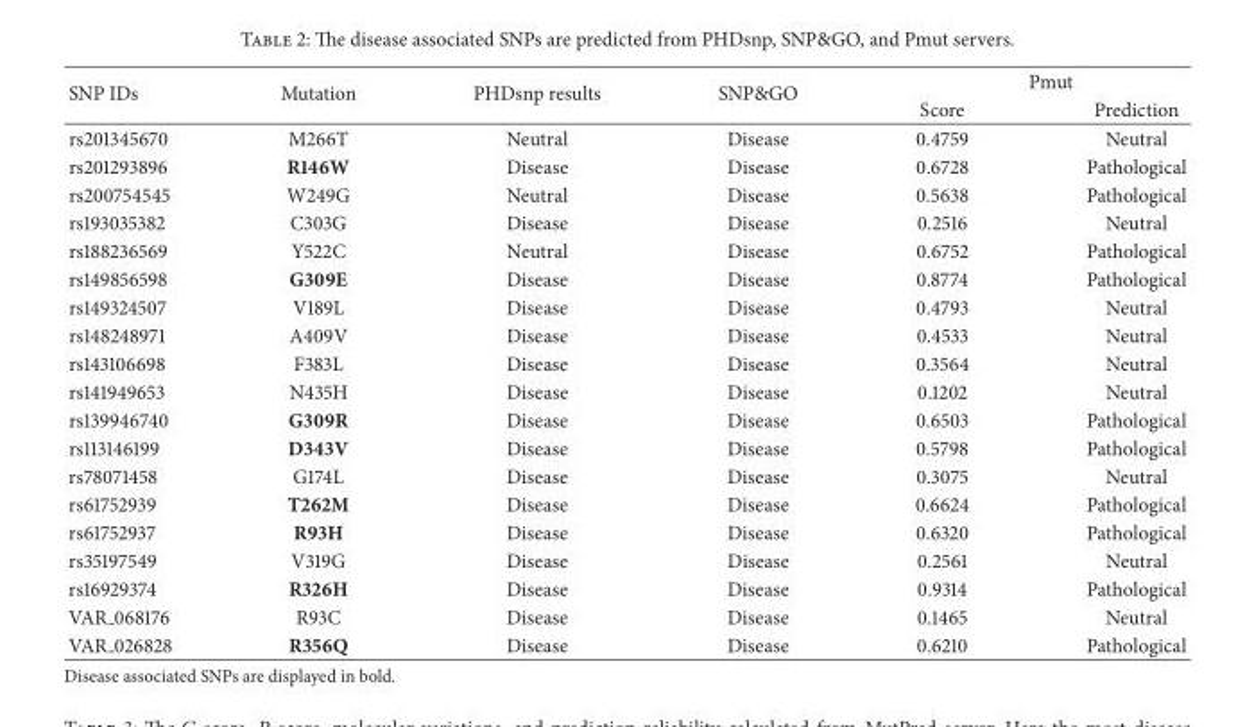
<table><thead><tr><td rowspan="2">SNP IDs</td><td rowspan="2">Mutation</td><td rowspan="2">PHDsnp results</td><td rowspan="2">SNP&amp;GO</td><td colspan="2">Pmut</td></tr><tr><td>Score</td><td>Prediction</td></tr></thead><tbody><tr><td>rs201345670</td><td>M266T</td><td>Neutral</td><td>Disease</td><td>0.4759</td><td>Neutral</td></tr><tr><td>rs201293896</td><td>R146W</td><td>Disease</td><td>Disease</td><td>0.6728</td><td>Pathological</td></tr><tr><td>rs200754545</td><td>W249G</td><td>Neutral</td><td>Disease</td><td>0.5638</td><td>Pathological</td></tr><tr><td>rs193035382</td><td>C303G</td><td>Disease</td><td>Disease</td><td>0.2516</td><td>Neutral</td></tr><tr><td>rs188236569</td><td>Y522C</td><td>Neutral</td><td>Disease</td><td>0.6752</td><td>Pathological</td></tr><tr><td>rs149856598</td><td>G309E</td><td>Disease</td><td>Disease</td><td>0.8774</td><td>Pathological</td></tr><tr><td>rs149324507</td><td>V189L</td><td>Disease</td><td>Disease</td><td>0.4793</td><td>Neutral</td></tr><tr><td>rs148248971</td><td>A409V</td><td>Disease</td><td>Disease</td><td>0.4533</td><td>Neutral</td></tr><tr><td>rs143106698</td><td>F383L</td><td>Disease</td><td>Disease</td><td>0.3564</td><td>Neutral</td></tr><tr><td>rs141949653</td><td>N435H</td><td>Disease</td><td>Disease</td><td>0.1202</td><td>Neutral</td></tr><tr><td>rs139946740</td><td>G309R</td><td>Disease</td><td>Disease</td><td>0.6503</td><td>Pathological</td></tr><tr><td>rs113146199</td><td>D343V</td><td>Disease</td><td>Disease</td><td>0.5798</td><td>Pathological</td></tr><tr><td>rs78071458</td><td>G174L</td><td>Disease</td><td>Disease</td><td>0.3075</td><td>Neutral</td></tr><tr><td>rs61752939</td><td>T262M</td><td>Disease</td><td>Disease</td><td>0.6624</td><td>Pathological</td></tr><tr><td>rs61752937</td><td>R93H</td><td>Disease</td><td>Disease</td><td>0.6320</td><td>Pathological</td></tr><tr><td>rs35197549</td><td>V319G</td><td>Disease</td><td>Disease</td><td>0.2561</td><td>Neutral</td></tr><tr><td>rs16929374</td><td>R326H</td><td>Disease</td><td>Disease</td><td>0.9314</td><td>Pathological</td></tr><tr><td>VAR 068176</td><td>R93C</td><td>Disease</td><td>Disease</td><td>0.1465</td><td>Neutral</td></tr><tr><td>VAR 026828</td><td>R356Q</td><td>Disease</td><td>Disease</td><td>0.6210</td><td>Pathological</td></tr></tbody></table>